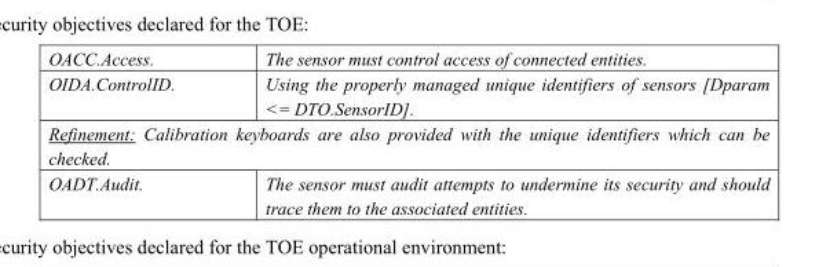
<table><tbody><tr><td>OACC.Access.</td><td>The sensor must control access of connected entities.</td></tr><tr><td>OIDA.ControlID.</td><td>Using the properly managed unique identifiers of sensors [Dparam &lt;= DTO.SensorID].</td></tr><tr><td colspan="2">Refinement: Calibration keyboards are also provided with the unique identifiers which can be checked.</td></tr><tr><td>OADT.Audit.</td><td>The sensor must audit attempts to undermine its security and should trace them to the associated entities.</td></tr></tbody></table>